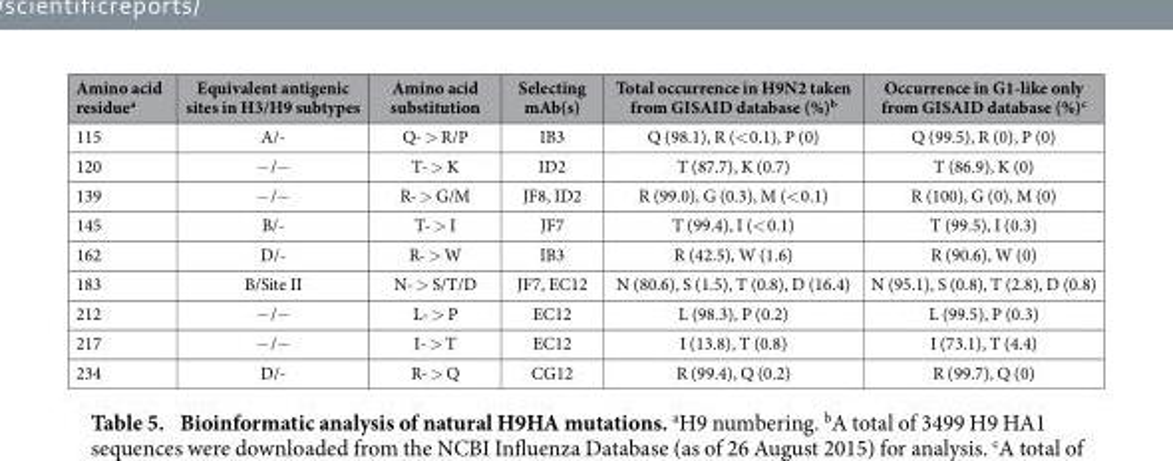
<table><thead><tr><td>Amino acid residue<sup>a</sup></td><td>Equivalent antigenic sites in H3/H9 subtypes</td><td>Amino acid substitution</td><td>Selecting mAb(s)</td><td>Total occurrence in H9N2 taken from GISAID database (%)<sup>b</sup></td><td>Occurrence in G1-like only from GISAID database (%)<sup>c</sup></td></tr></thead><tbody><tr><td>115</td><td>A/-</td><td>Q- &gt; R/P</td><td>IB3</td><td>Q (98.1), R (&lt; 0.1), P (0)</td><td>Q (99.5), R (0), P (0)</td></tr><tr><td>120</td><td>− /−</td><td>T- &gt; K</td><td>ID2</td><td>T (87.7), K (0.7)</td><td>T (86.9), K (0)</td></tr><tr><td>139</td><td>− /−</td><td>R- &gt; G/M</td><td>JF8, ID2</td><td>R (99.0), G (0.3), M (&lt; 0.1)</td><td>R (100), G (0), M (0)</td></tr><tr><td>145</td><td>B/-</td><td>T- &gt; I</td><td>JF7</td><td>T (99.4), I (&lt; 0.1)</td><td>T (99.5), I (0.3)</td></tr><tr><td>162</td><td>D/-</td><td>R- &gt; W</td><td>IB3</td><td>R (42.5), W (1.6)</td><td>R (90.6), W (0)</td></tr><tr><td>183</td><td>B/Site II</td><td>N- &gt; S/T/D</td><td>JF7, EC12</td><td>N (80.6), S (1.5), T (0.8), D (16.4)</td><td>N (95.1), S (0.8), T (2.8), D (0.8)</td></tr><tr><td>212</td><td>− /−</td><td>L- &gt; P</td><td>EC12</td><td>L (98.3), P (0.2)</td><td>L (99.5), P (0.3)</td></tr><tr><td>217</td><td>− /−</td><td>I- &gt; T</td><td>EC12</td><td>I (13.8), T (0.8)</td><td>I (73.1), T (4.4)</td></tr><tr><td>234</td><td>D/-</td><td>R- &gt; Q</td><td>CG12</td><td>R (99.4), Q (0.2)</td><td>R (99.7), Q (0)</td></tr></tbody></table>